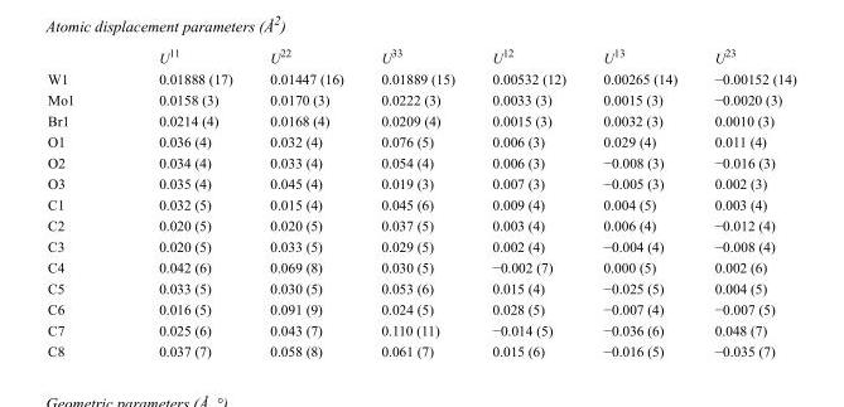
<table><thead><tr><td></td><td>U<sup>11</sup></td><td>U<sup>22</sup></td><td>U<sup>33</sup></td><td>U<sup>12</sup></td><td>U<sup>13</sup></td><td>U<sup>23</sup></td></tr></thead><tbody><tr><td>W1</td><td>0.01888 (17)</td><td>0.01447 (16)</td><td>0.01889 (15)</td><td>0.00532 (12)</td><td>0.00265 (14)</td><td>−0.00152 (14)</td></tr><tr><td>Mo1</td><td>0.0158 (3)</td><td>0.0170 (3)</td><td>0.0222 (3)</td><td>0.0033 (3)</td><td>0.0015 (3)</td><td>−0.0020 (3)</td></tr><tr><td>Br1</td><td>0.0214 (4)</td><td>0.0168 (4)</td><td>0.0209 (4)</td><td>0.0015 (3)</td><td>0.0032 (3)</td><td>0.0010 (3)</td></tr><tr><td>O1</td><td>0.036 (4)</td><td>0.032 (4)</td><td>0.076 (5)</td><td>0.006 (3)</td><td>0.029 (4)</td><td>0.011 (4)</td></tr><tr><td>O2</td><td>0.034 (4)</td><td>0.033 (4)</td><td>0.054 (4)</td><td>0.006 (3)</td><td>−0.008 (3)</td><td>−0.016 (3)</td></tr><tr><td>O3</td><td>0.035 (4)</td><td>0.045 (4)</td><td>0.019 (3)</td><td>0.007 (3)</td><td>−0.005 (3)</td><td>0.002 (3)</td></tr><tr><td>C1</td><td>0.032 (5)</td><td>0.015 (4)</td><td>0.045 (6)</td><td>0.009 (4)</td><td>0.004 (5)</td><td>0.003 (4)</td></tr><tr><td>C2</td><td>0.020 (5)</td><td>0.020 (5)</td><td>0.037 (5)</td><td>0.003 (4)</td><td>0.006 (4)</td><td>−0.012 (4)</td></tr><tr><td>C3</td><td>0.020 (5)</td><td>0.033 (5)</td><td>0.029 (5)</td><td>0.002 (4)</td><td>−0.004 (4)</td><td>−0.008 (4)</td></tr><tr><td>C4</td><td>0.042 (6)</td><td>0.069 (8)</td><td>0.030 (5)</td><td>−0.002 (7)</td><td>0.000 (5)</td><td>0.002 (6)</td></tr><tr><td>C5</td><td>0.033 (5)</td><td>0.030 (5)</td><td>0.053 (6)</td><td>0.015 (4)</td><td>−0.025 (5)</td><td>0.004 (5)</td></tr><tr><td>C6</td><td>0.016 (5)</td><td>0.091 (9)</td><td>0.024 (5)</td><td>0.028 (5)</td><td>−0.007 (4)</td><td>−0.007 (5)</td></tr><tr><td>C7</td><td>0.025 (6)</td><td>0.043 (7)</td><td>0.110 (11)</td><td>−0.014 (5)</td><td>−0.036 (6)</td><td>0.048 (7)</td></tr><tr><td>C8</td><td>0.037 (7)</td><td>0.058 (8)</td><td>0.061 (7)</td><td>0.015 (6)</td><td>−0.016 (5)</td><td>−0.035 (7)</td></tr></tbody></table>